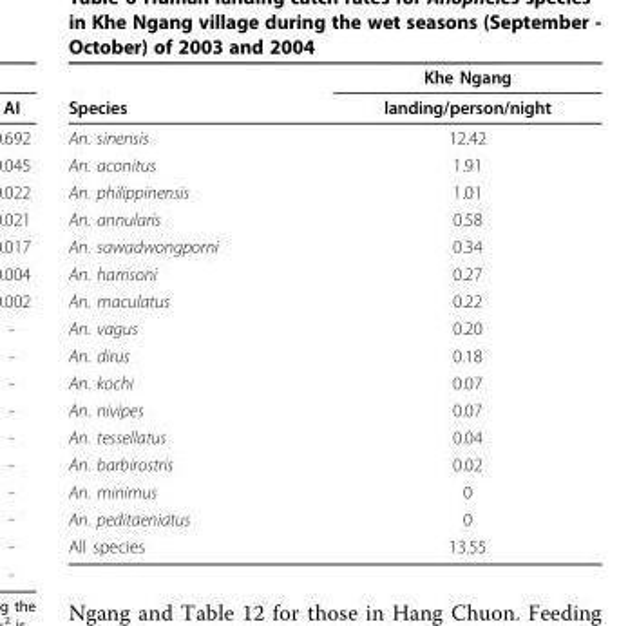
<table><thead><tr><td rowspan="2">Species</td><td rowspan="2">Khe Ngang landing/person/night</td></tr><tr></tr></thead><tbody><tr><td>An. sinensis</td><td>12.42</td></tr><tr><td>An. aconitus</td><td>1.91</td></tr><tr><td>An. philippinensis</td><td>1.01</td></tr><tr><td>An. annularis</td><td>0.58</td></tr><tr><td>An. sawadwongporni</td><td>0.34</td></tr><tr><td>An. harrisoni</td><td>0.27</td></tr><tr><td>An. maculatus</td><td>0.22</td></tr><tr><td>An. vagus</td><td>0.20</td></tr><tr><td>An. dirus</td><td>0.18</td></tr><tr><td>An. kochi</td><td>0.07</td></tr><tr><td>An. nivipes</td><td>0.07</td></tr><tr><td>An. tessellatus</td><td>0.04</td></tr><tr><td>An. barbirostris</td><td>0.02</td></tr><tr><td>An. minimus</td><td>0</td></tr><tr><td>An. peditaeniatus</td><td>0</td></tr><tr><td>All species</td><td>13.55</td></tr></tbody></table>